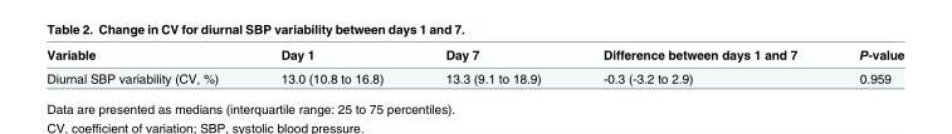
<table><thead><tr><td>Variable</td><td>Day 1</td><td>Day 7</td><td>Difference between days 1 and 7</td><td>P-value</td></tr></thead><tbody><tr><td>Diurnal SBP variability (CV, %)</td><td>13.0 (10.8 to 16.8)</td><td>13.3 (9.1 to 18.9)</td><td>-0.3 (-3.2 to 2.9)</td><td>0.959</td></tr></tbody></table>